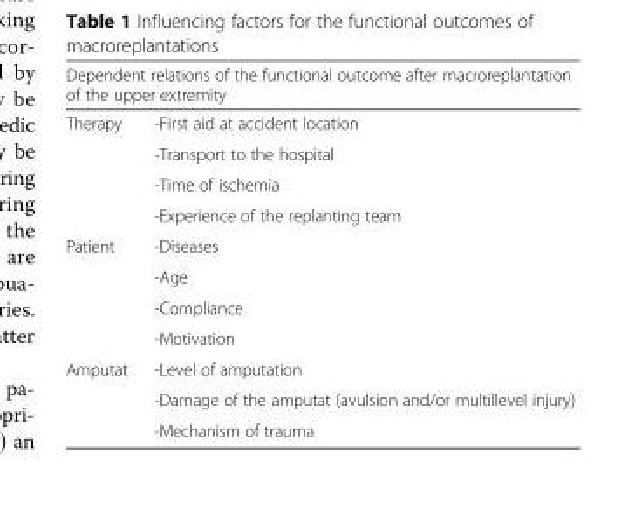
<table><thead><tr><td colspan="2">Dependent relations of the functional outcome after macroreplantation of the upper extremity</td></tr><tr><td>Therapy</td><td>-First aid at accident location</td></tr></thead><tbody><tr><td></td><td>-Transport to the hospital</td></tr><tr><td></td><td>-Time of ischemia</td></tr><tr><td></td><td>-Experience of the replanting team</td></tr><tr><td rowspan="4">Patient</td><td>-Diseases</td></tr><tr><td>-Age</td></tr><tr><td>-Compliance</td></tr><tr><td>-Motivation</td></tr><tr><td rowspan="3">Amputat</td><td>-Level of amputation</td></tr><tr><td>-Damage of the amputat (avulsion and/or multillevel injury)</td></tr><tr><td>-Mechanism of trauma</td></tr></tbody></table>